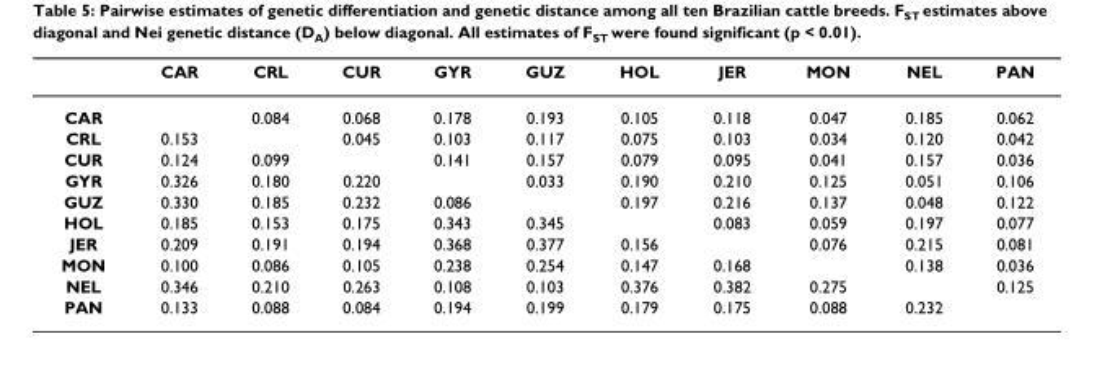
<table><thead><tr><td></td><td>CAR</td><td>CRL</td><td>CUR</td><td>GYR</td><td>GUZ</td><td>HOL</td><td>JER</td><td>MON</td><td>NEL</td><td>PAN</td></tr></thead><tbody><tr><td>CAR</td><td></td><td>0.084</td><td>0.068</td><td>0.178</td><td>0.193</td><td>0.105</td><td>0.118</td><td>0.047</td><td>0.185</td><td>0.062</td></tr><tr><td>CRL</td><td>0.153</td><td></td><td>0.045</td><td>0.103</td><td>0.117</td><td>0.075</td><td>0.103</td><td>0.034</td><td>0.120</td><td>0.042</td></tr><tr><td>CUR</td><td>0.124</td><td>0.099</td><td></td><td>0.141</td><td>0.157</td><td>0.079</td><td>0.095</td><td>0.041</td><td>0.157</td><td>0.036</td></tr><tr><td>GYR</td><td>0.326</td><td>0.180</td><td>0.220</td><td></td><td>0.033</td><td>0.190</td><td>0.210</td><td>0.125</td><td>0.051</td><td>0.106</td></tr><tr><td>GUZ</td><td>0.330</td><td>0.185</td><td>0.232</td><td>0.086</td><td></td><td>0.197</td><td>0.216</td><td>0.137</td><td>0.048</td><td>0.122</td></tr><tr><td>HOL</td><td>0.185</td><td>0.153</td><td>0.175</td><td>0.343</td><td>0.345</td><td></td><td>0.083</td><td>0.059</td><td>0.197</td><td>0.077</td></tr><tr><td>JER</td><td>0.209</td><td>0.191</td><td>0.194</td><td>0.368</td><td>0.377</td><td>0.156</td><td></td><td>0.076</td><td>0.215</td><td>0.081</td></tr><tr><td>MON</td><td>0.100</td><td>0.086</td><td>0.105</td><td>0.238</td><td>0.254</td><td>0.147</td><td>0.168</td><td></td><td>0.138</td><td>0.036</td></tr><tr><td>NEL</td><td>0.346</td><td>0.210</td><td>0.263</td><td>0.108</td><td>0.103</td><td>0.376</td><td>0.382</td><td>0.275</td><td></td><td>0.125</td></tr><tr><td>PAN</td><td>0.133</td><td>0.088</td><td>0.084</td><td>0.194</td><td>0.199</td><td>0.179</td><td>0.175</td><td>0.088</td><td>0.232</td><td></td></tr></tbody></table>